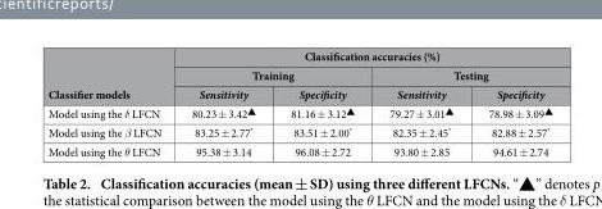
<table><thead><tr><td rowspan="3">Classifier models</td><td colspan="4">Classification accuracies (%)</td></tr><tr><td colspan="2">Training</td><td colspan="2">Testing</td></tr><tr><td>Sensitivity</td><td>Specificity</td><td>Sensitivity</td><td>Specificity</td></tr></thead><tbody><tr><td>Model using the δ LFCN</td><td>80.23 ± 3.42<sup>▲</sup></td><td>81.16 ± 3.12<sup>▲</sup></td><td>79.27 ± 3.01<sup>▲</sup></td><td>78.98 ± 3.09<sup>▲</sup></td></tr><tr><td>Model using the β LFCN</td><td>83.25 ± 2.77*</td><td>83.51 ± 2.00*</td><td>82.35 ± 2.45*</td><td>82.88 ± 2.57*</td></tr><tr><td>Model using the θ LFCN</td><td>95.38 ± 3.14</td><td>96.08 ± 2.72</td><td>93.80 ± 2.85</td><td>94.61 ± 2.74</td></tr></tbody></table>